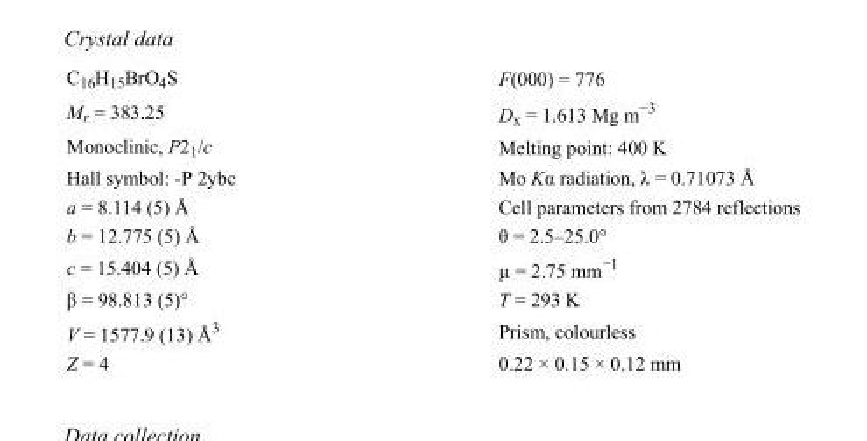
<table><tbody><tr><td>C<sub>16</sub>H<sub>15</sub>BrO<sub>4</sub>S</td><td>F(000) = 776</td></tr><tr><td>M<sub>r</sub> = 383.25</td><td>D<sub>x</sub> = 1.613 Mg m<sup>−3</sup></td></tr><tr><td>Monoclinic, P2<sub>1</sub>/c</td><td>Melting point: 400 K</td></tr><tr><td>Hall symbol: -P 2ybc</td><td>Mo Kα radiation, λ = 0.71073 Å</td></tr><tr><td>a = 8.114 (5) Å</td><td>Cell parameters from 2784 reflections</td></tr><tr><td>b = 12.775 (5) Å</td><td>θ = 2.5–25.0°</td></tr><tr><td>c = 15.404 (5) Å</td><td>µ = 2.75 mm<sup>−1</sup></td></tr><tr><td>β = 98.813 (5)°</td><td>T = 293 K</td></tr><tr><td>V = 1577.9 (13) Å<sup>3</sup></td><td>Prism, colourless</td></tr><tr><td>Z = 4</td><td>0.22 × 0.15 × 0.12 mm</td></tr></tbody></table>